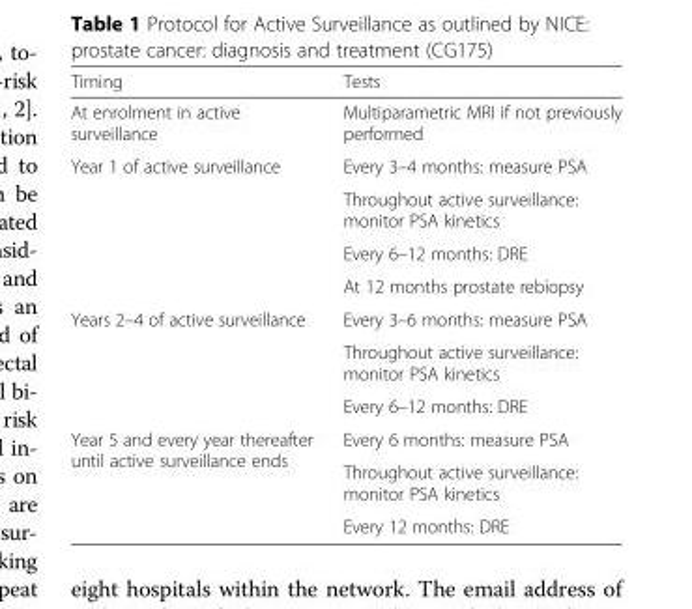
<table><thead><tr><td>Timing</td><td>Tests</td></tr></thead><tbody><tr><td>At enrolment in active surveillance</td><td>Multiparametric MRI if not previously performed</td></tr><tr><td rowspan="4">Year 1 of active surveillance</td><td>Every 3–4 months: measure PSA</td></tr><tr><td>Throughout active surveillance: monitor PSA kinetics</td></tr><tr><td>Every 6–12 months: DRE</td></tr><tr><td>At 12 months prostate rebiopsy</td></tr><tr><td rowspan="3">Years 2–4 of active surveillance</td><td>Every 3–6 months: measure PSA</td></tr><tr><td>Throughout active surveillance: monitor PSA kinetics</td></tr><tr><td>Every 6–12 months: DRE</td></tr><tr><td rowspan="3">Year 5 and every year thereafter until active surveillance ends</td><td>Every 6 months: measure PSA</td></tr><tr><td>Throughout active surveillance: monitor PSA kinetics</td></tr><tr><td>Every 12 months: DRE</td></tr></tbody></table>